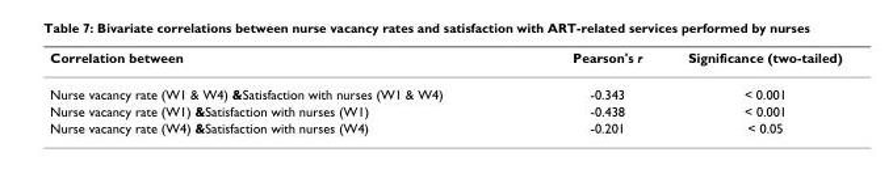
<table><thead><tr><td>Correlation between</td><td>Pearson&#x27;s r</td><td>Significance (two-tailed)</td></tr></thead><tbody><tr><td>Nurse vacancy rate (W1 &amp; W4) &amp;Satisfaction with nurses (W1 &amp; W4)</td><td>-0.343</td><td>&lt; 0.001</td></tr><tr><td>Nurse vacancy rate (W1) &amp;Satisfaction with nurses (W1)</td><td>-0.438</td><td>&lt; 0.001</td></tr><tr><td>Nurse vacancy rate (W4) &amp;Satisfaction with nurses (W4)</td><td>-0.201</td><td>&lt; 0.05</td></tr></tbody></table>